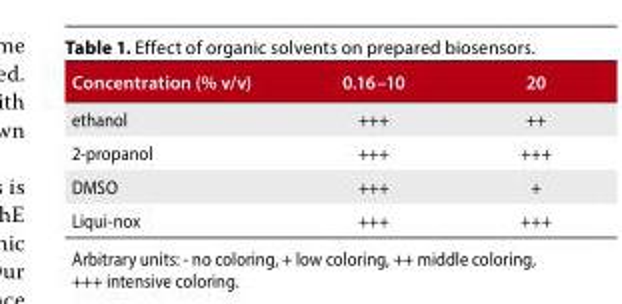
<table><thead><tr><td>Concentration (% v/v)</td><td>0.16–10</td><td>20</td></tr></thead><tbody><tr><td>ethanol</td><td>+++</td><td>++</td></tr><tr><td>2-propanol</td><td>+++</td><td>+++</td></tr><tr><td>DMSO</td><td>+++</td><td>+</td></tr><tr><td>Liqui-nox</td><td>+++</td><td>+++</td></tr></tbody></table>